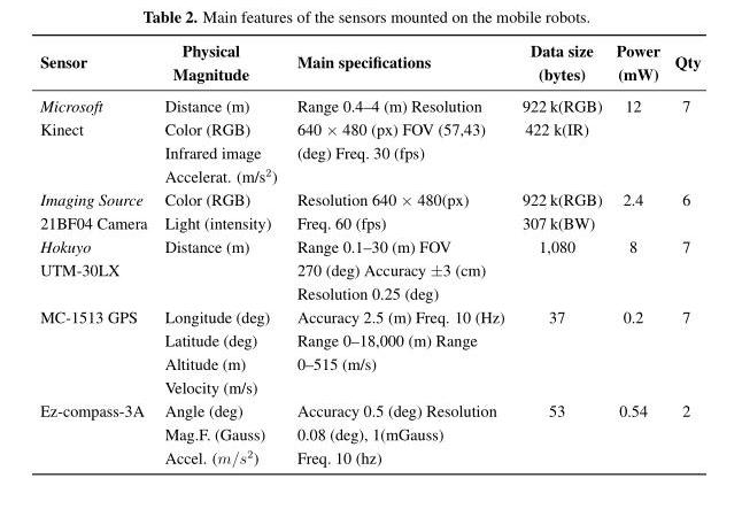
<table><thead><tr><td>Sensor</td><td>Physical Magnitude</td><td>Main specifications</td><td>Data size (bytes)</td><td>Power (mW)</td><td>Qty</td></tr></thead><tbody><tr><td>Microsoft Kinect</td><td>Distance (m) Color (RGB) Infrared image Accelerat. (m/s<sup>2</sup>)</td><td>Range 0.4–4 (m) Resolution 640 × 480 (px) FOV (57,43) (deg) Freq. 30 (fps)</td><td>922 k(RGB) 422 k(IR)</td><td>12</td><td>7</td></tr><tr><td>Imaging Source 21BF04 Camera</td><td>Color (RGB) Light (intensity)</td><td>Resolution 640 × 480(px) Freq. 60 (fps)</td><td>922 k(RGB) 307 k(BW)</td><td>2.4</td><td>6</td></tr><tr><td>Hokuyo UTM-30LX</td><td>Distance (m)</td><td>Range 0.1–30 (m) FOV 270 (deg) Accuracy ±3 (cm) Resolution 0.25 (deg)</td><td>1,080</td><td>8</td><td>7</td></tr><tr><td>MC-1513 GPS</td><td>Longitude (deg) Latitude (deg) Altitude (m) Velocity (m/s)</td><td>Accuracy 2.5 (m) Freq. 10 (Hz) Range 0–18,000 (m) Range 0–515 (m/s)</td><td>37</td><td>0.2</td><td>7</td></tr><tr><td>Ez-compass-3A</td><td>Angle (deg) Mag.F. (Gauss) Accel. (m/s<sup>2</sup>)</td><td>Accuracy 0.5 (deg) Resolution 0.08 (deg), 1(mGauss) Freq. 10 (hz)</td><td>53</td><td>0.54</td><td>2</td></tr></tbody></table>